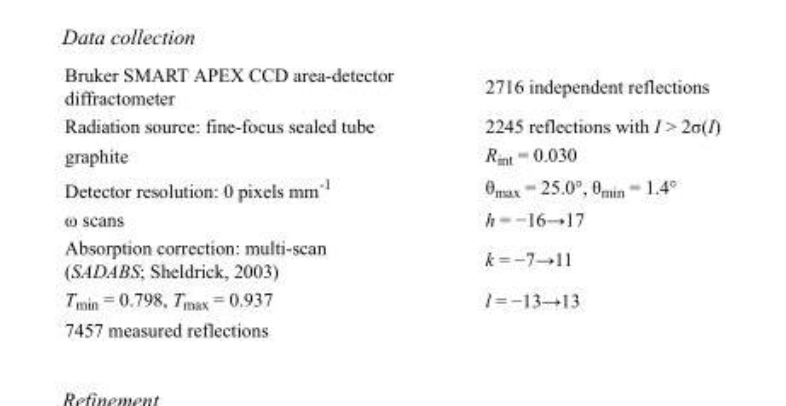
<table><tbody><tr><td>Bruker SMART APEX CCD area-detector diffractometer</td><td>2716 independent reflections</td></tr><tr><td>Radiation source: fine-focus sealed tube</td><td>2245 reflections with I &gt; 2σ(I)</td></tr><tr><td>graphite</td><td>R<sub>int</sub> = 0.030</td></tr><tr><td>Detector resolution: 0 pixels mm<sup>-1</sup></td><td>θ<sub>max</sub> = 25.0°, θ<sub>min</sub> = 1.4°</td></tr><tr><td>ω scans</td><td>h = −16→17</td></tr><tr><td>Absorption correction: multi-scan (SADABS; Sheldrick, 2003)</td><td>k = −7→11</td></tr><tr><td>T<sub>min</sub> = 0.798, T<sub>max</sub> = 0.937</td><td>l = −13→13</td></tr><tr><td>7457 measured reflections</td><td></td></tr></tbody></table>